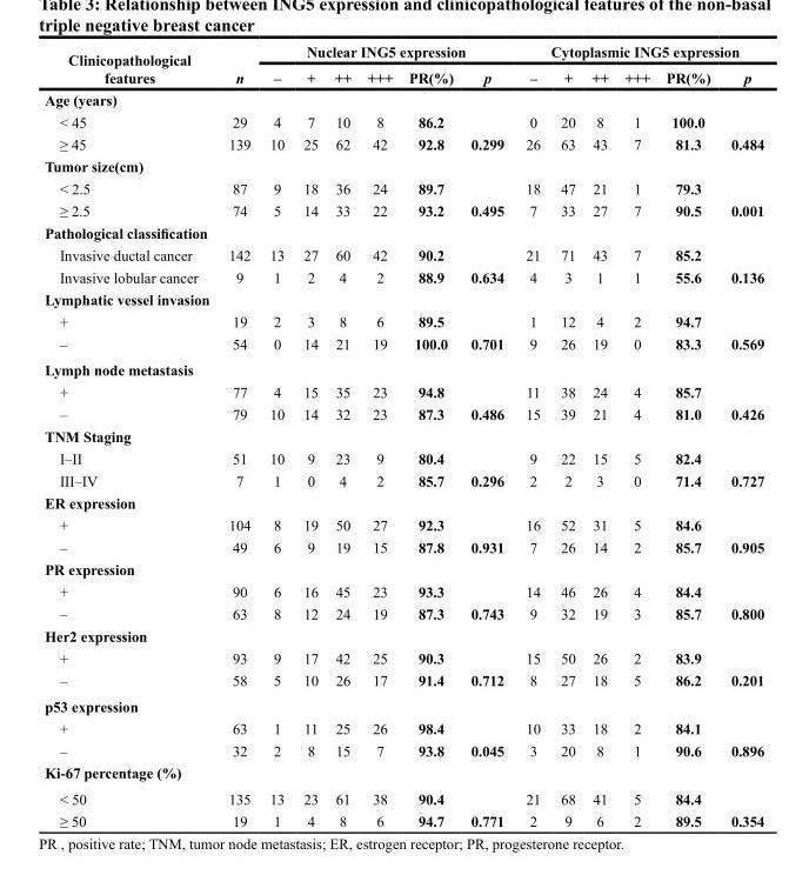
<table><thead><tr><td rowspan="2">Clinicopathological features</td><td rowspan="2">n</td><td colspan="6">Nuclear ING5 expression</td><td colspan="6">Cytoplasmic ING5 expression</td></tr><tr><td>–</td><td>+</td><td>++</td><td>+++</td><td>PR(%)</td><td>p</td><td>–</td><td>+</td><td>++</td><td>+++</td><td>PR(%)</td><td>p</td></tr></thead><tbody><tr><td colspan="14">Age (years)</td></tr><tr><td>&lt; 45</td><td>29</td><td>4</td><td>7</td><td>10</td><td>8</td><td>86.2</td><td rowspan="2">0.299</td><td>0</td><td>20</td><td>8</td><td>1</td><td>100.0</td><td rowspan="2">0.484</td></tr><tr><td>≥ 45</td><td>139</td><td>10</td><td>25</td><td>62</td><td>42</td><td>92.8</td><td>26</td><td>63</td><td>43</td><td>7</td><td>81.3</td></tr><tr><td colspan="14">Tumor size(cm)</td></tr><tr><td>&lt; 2.5</td><td>87</td><td>9</td><td>18</td><td>36</td><td>24</td><td>89.7</td><td></td><td>18</td><td>47</td><td>21</td><td>1</td><td>79.3</td><td></td></tr><tr><td>≥ 2.5</td><td>74</td><td>5</td><td>14</td><td>33</td><td>22</td><td>93.2</td><td>0.495</td><td>7</td><td>33</td><td>27</td><td>7</td><td>90.5</td><td>0.001</td></tr><tr><td colspan="14">Pathological classification</td></tr><tr><td>Invasive ductal cancer</td><td>142</td><td>13</td><td>27</td><td>60</td><td>42</td><td>90.2</td><td rowspan="2">0.634</td><td>21</td><td>71</td><td>43</td><td>7</td><td>85.2</td><td rowspan="2">0.136</td></tr><tr><td>Invasive lobular cancer</td><td>9</td><td>1</td><td>2</td><td>4</td><td>2</td><td>88.9</td><td>4</td><td>3</td><td>1</td><td>1</td><td>55.6</td></tr><tr><td colspan="14">Lymphatic vessel invasion</td></tr><tr><td>+</td><td>19</td><td>2</td><td>3</td><td>8</td><td>6</td><td>89.5</td><td rowspan="2">0.701</td><td>1</td><td>12</td><td>4</td><td>2</td><td>94.7</td><td rowspan="2">0.569</td></tr><tr><td>–</td><td>54</td><td>0</td><td>14</td><td>21</td><td>19</td><td>100.0</td><td>9</td><td>26</td><td>19</td><td>0</td><td>83.3</td></tr><tr><td colspan="14">Lymph node metastasis</td></tr><tr><td>+</td><td>77</td><td>4</td><td>15</td><td>35</td><td>23</td><td>94.8</td><td rowspan="2">0.486</td><td>11</td><td>38</td><td>24</td><td>4</td><td>85.7</td><td rowspan="2">0.426</td></tr><tr><td>–</td><td>79</td><td>10</td><td>14</td><td>32</td><td>23</td><td>87.3</td><td>15</td><td>39</td><td>21</td><td>4</td><td>81.0</td></tr><tr><td colspan="14">TNM Staging</td></tr><tr><td>I–II</td><td>51</td><td>10</td><td>9</td><td>23</td><td>9</td><td>80.4</td><td></td><td>9</td><td>22</td><td>15</td><td>5</td><td>82.4</td><td></td></tr><tr><td>III–IV</td><td>7</td><td>1</td><td>0</td><td>4</td><td>2</td><td>85.7</td><td>0.296</td><td>2</td><td>2</td><td>3</td><td>0</td><td>71.4</td><td>0.727</td></tr><tr><td colspan="14">ER expression</td></tr><tr><td>+</td><td>104</td><td>8</td><td>19</td><td>50</td><td>27</td><td>92.3</td><td rowspan="2">0.931</td><td>16</td><td>52</td><td>31</td><td>5</td><td>84.6</td><td rowspan="2">0.905</td></tr><tr><td>–</td><td>49</td><td>6</td><td>9</td><td>19</td><td>15</td><td>87.8</td><td>7</td><td>26</td><td>14</td><td>2</td><td>85.7</td></tr><tr><td colspan="14">PR expression</td></tr><tr><td>+</td><td>90</td><td>6</td><td>16</td><td>45</td><td>23</td><td>93.3</td><td rowspan="2">0.743</td><td>14</td><td>46</td><td>26</td><td>4</td><td>84.4</td><td rowspan="2">0.800</td></tr><tr><td>–</td><td>63</td><td>8</td><td>12</td><td>24</td><td>19</td><td>87.3</td><td>9</td><td>32</td><td>19</td><td>3</td><td>85.7</td></tr><tr><td colspan="14">Her2 expression</td></tr><tr><td>+</td><td>93</td><td>9</td><td>17</td><td>42</td><td>25</td><td>90.3</td><td rowspan="2">0.712</td><td>15</td><td>50</td><td>26</td><td>2</td><td>83.9</td><td rowspan="2">0.201</td></tr><tr><td>–</td><td>58</td><td>5</td><td>10</td><td>26</td><td>17</td><td>91.4</td><td>8</td><td>27</td><td>18</td><td>5</td><td>86.2</td></tr><tr><td colspan="14">p53 expression</td></tr><tr><td>+</td><td>63</td><td>1</td><td>11</td><td>25</td><td>26</td><td>98.4</td><td rowspan="2">0.045</td><td>10</td><td>33</td><td>18</td><td>2</td><td>84.1</td><td rowspan="2">0.896</td></tr><tr><td>–</td><td>32</td><td>2</td><td>8</td><td>15</td><td>7</td><td>93.8</td><td>3</td><td>20</td><td>8</td><td>1</td><td>90.6</td></tr><tr><td colspan="14">Ki-67 percentage (%)</td></tr><tr><td>&lt; 50</td><td>135</td><td>13</td><td>23</td><td>61</td><td>38</td><td>90.4</td><td rowspan="2">0.771</td><td>21</td><td>68</td><td>41</td><td>5</td><td>84.4</td><td rowspan="2">0.354</td></tr><tr><td>≥ 50</td><td>19</td><td>1</td><td>4</td><td>8</td><td>6</td><td>94.7</td><td>2</td><td>9</td><td>6</td><td>2</td><td>89.5</td></tr></tbody></table>